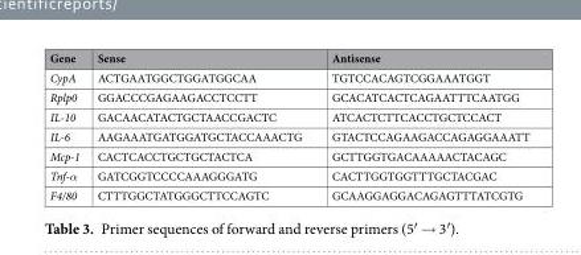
<table><thead><tr><td>Gene</td><td>Sense</td><td>Antisense</td></tr></thead><tbody><tr><td>CypA</td><td>ACTGAATGGCTGGATGGCAA</td><td>TGTCCACAGTCGGAAATGGT</td></tr><tr><td>Rplp0</td><td>GGACCCGAGAAGACCTCCTT</td><td>GCACATCACTCAGAATTTCAATGG</td></tr><tr><td>IL-10</td><td>GACAACATACTGCTAACCGACTC</td><td>ATCACTCTTCACCTGCTCCACT</td></tr><tr><td>IL-6</td><td>AAGAAATGATGGATGCTACCAAACTG</td><td>GTACTCCAGAAGACCAGAGGAAATT</td></tr><tr><td>Mcp-1</td><td>CACTCACCTGCTGCTACTCA</td><td>GCTTGGTGACAAAAACTACAGC</td></tr><tr><td>Tnf-α</td><td>GATCGGTCCCCAAAGGGATG</td><td>CACTTGGTGGTTTGCTACGAC</td></tr><tr><td>F4/80</td><td>CTTTGGCTATGGGCTTCCAGTC</td><td>GCAAGGAGGACAGAGTTTATCGTG</td></tr></tbody></table>